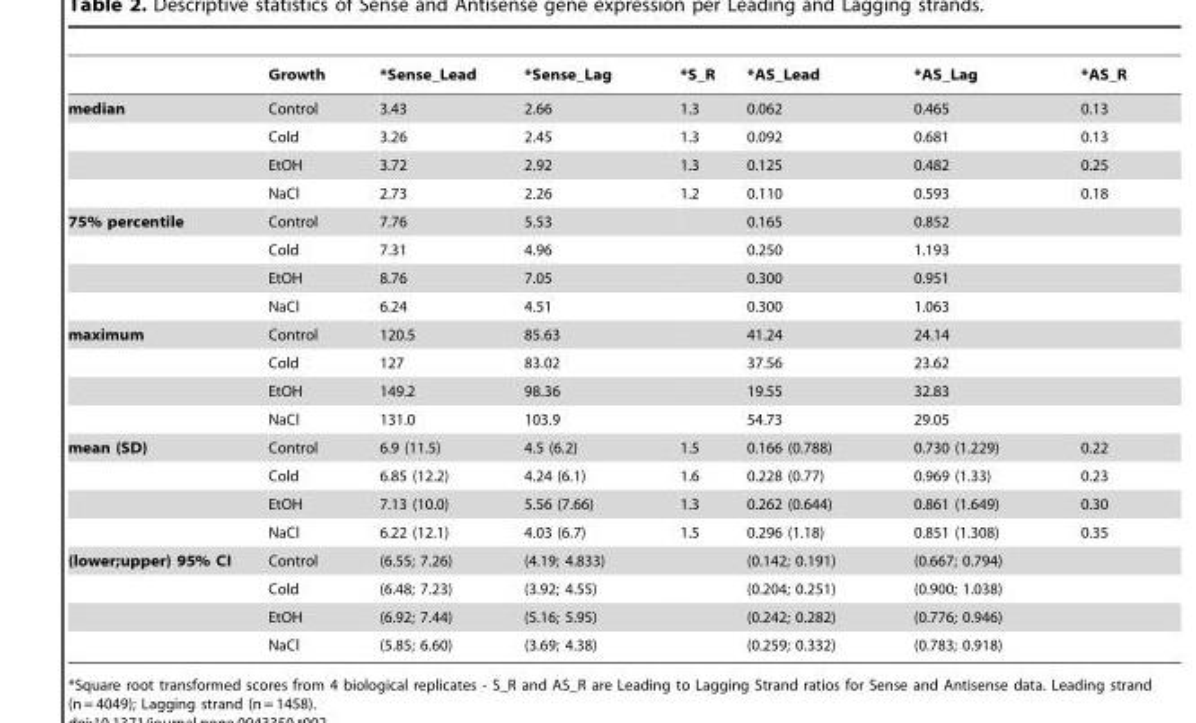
<table><thead><tr><td></td><td>Growth</td><td>*Sense_Lead</td><td>*Sense_Lag</td><td>*S_R</td><td>*AS_Lead</td><td>*AS_Lag</td><td>*AS_R</td></tr></thead><tbody><tr><td rowspan="4">median</td><td>Control</td><td>3.43</td><td>2.66</td><td>1.3</td><td>0.062</td><td>0.465</td><td>0.13</td></tr><tr><td>Cold</td><td>3.26</td><td>2.45</td><td>1.3</td><td>0.092</td><td>0.681</td><td>0.13</td></tr><tr><td>EtOH</td><td>3.72</td><td>2.92</td><td>1.3</td><td>0.125</td><td>0.482</td><td>0.25</td></tr><tr><td>NaCl</td><td>2.73</td><td>2.26</td><td>1.2</td><td>0.110</td><td>0.593</td><td>0.18</td></tr><tr><td rowspan="4">75% percentile</td><td>Control</td><td>7.76</td><td>5.53</td><td></td><td>0.165</td><td>0.852</td><td></td></tr><tr><td>Cold</td><td>7.31</td><td>4.96</td><td></td><td>0.250</td><td>1.193</td><td></td></tr><tr><td>EtOH</td><td>8.76</td><td>7.05</td><td></td><td>0.300</td><td>0.951</td><td></td></tr><tr><td>NaCl</td><td>6.24</td><td>4.51</td><td></td><td>0.300</td><td>1.063</td><td></td></tr><tr><td rowspan="4">maximum</td><td>Control</td><td>120.5</td><td>85.63</td><td></td><td>41.24</td><td>24.14</td><td></td></tr><tr><td>Cold</td><td>127</td><td>83.02</td><td></td><td>37.56</td><td>23.62</td><td></td></tr><tr><td>EtOH</td><td>149.2</td><td>98.36</td><td></td><td>19.55</td><td>32.83</td><td></td></tr><tr><td>NaCl</td><td>131.0</td><td>103.9</td><td></td><td>54.73</td><td>29.05</td><td></td></tr><tr><td rowspan="4">mean (SD)</td><td>Control</td><td>6.9 (11.5)</td><td>4.5 (6.2)</td><td>1.5</td><td>0.166 (0.788)</td><td>0.730 (1.229)</td><td>0.22</td></tr><tr><td>Cold</td><td>6.85 (12.2)</td><td>4.24 (6.1)</td><td>1.6</td><td>0.228 (0.77)</td><td>0.969 (1.33)</td><td>0.23</td></tr><tr><td>EtOH</td><td>7.13 (10.0)</td><td>5.56 (7.66)</td><td>1.3</td><td>0.262 (0.644)</td><td>0.861 (1.649)</td><td>0.30</td></tr><tr><td>NaCl</td><td>6.22 (12.1)</td><td>4.03 (6.7)</td><td>1.5</td><td>0.296 (1.18)</td><td>0.851 (1.308)</td><td>0.35</td></tr><tr><td rowspan="4">(lower;upper) 95% CI</td><td>Control</td><td>(6.55; 7.26)</td><td>(4.19; 4.833)</td><td></td><td>(0.142; 0.191)</td><td>(0.667; 0.794)</td><td></td></tr><tr><td>Cold</td><td>(6.48; 7.23)</td><td>(3.92; 4.55)</td><td></td><td>(0.204; 0.251)</td><td>(0.900; 1.038)</td><td></td></tr><tr><td>EtOH</td><td>(6.92; 7.44)</td><td>(5.16; 5.95)</td><td></td><td>(0.242; 0.282)</td><td>(0.776; 0.946)</td><td></td></tr><tr><td>NaCl</td><td>(5.85; 6.60)</td><td>(3.69; 4.38)</td><td></td><td>(0.259; 0.332)</td><td>(0.783; 0.918)</td><td></td></tr></tbody></table>